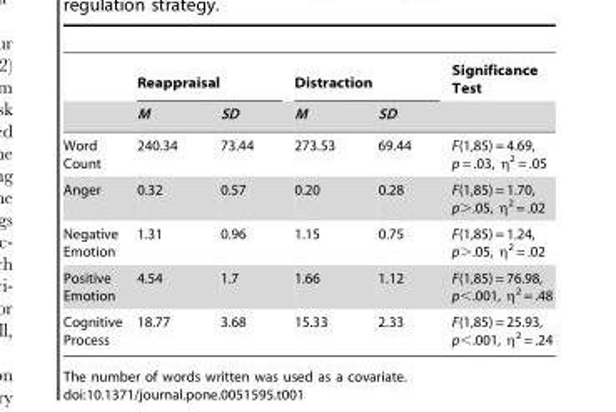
<table><thead><tr><td rowspan="2"></td><td colspan="2">Reappraisal</td><td colspan="2">Distraction</td><td rowspan="2">Significance Test</td></tr><tr><td>M</td><td>SD</td><td>M</td><td>SD</td></tr></thead><tbody><tr><td>Word Count</td><td>240.34</td><td>73.44</td><td>273.53</td><td>69.44</td><td>F(1,85) = 4.69, p = .03, η<sup>2</sup> = .05</td></tr><tr><td>Anger</td><td>0.32</td><td>0.57</td><td>0.20</td><td>0.28</td><td>F(1,85) = 1.70, p&gt;.05, η<sup>2</sup> = .02</td></tr><tr><td>Negative Emotion</td><td>1.31</td><td>0.96</td><td>1.15</td><td>0.75</td><td>F(1,85) = 1.24, p&gt;.05, η<sup>2</sup> = .02</td></tr><tr><td>Positive Emotion</td><td>4.54</td><td>1.7</td><td>1.66</td><td>1.12</td><td>F(1,85) = 76.98, p&lt;.001, η<sup>2</sup> = .48</td></tr><tr><td>Cognitive Process</td><td>18.77</td><td>3.68</td><td>15.33</td><td>2.33</td><td>F(1,85) = 25.93, p&lt;.001, η<sup>2</sup> = .24</td></tr></tbody></table>